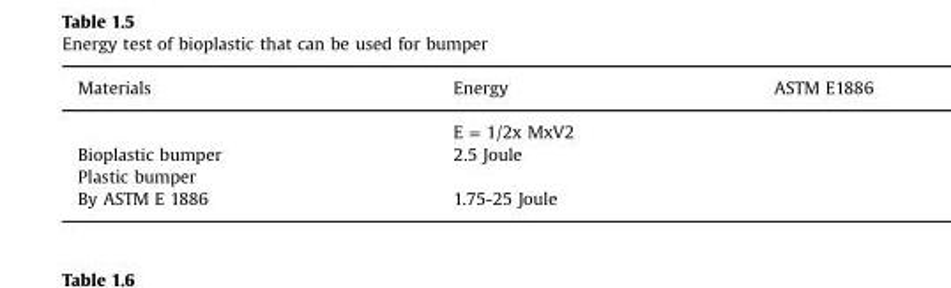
<table><thead><tr><td>Materials</td><td>Energy</td><td>ASTM E1886</td></tr></thead><tbody><tr><td></td><td>E = 1/2x MxV2</td><td></td></tr><tr><td>Bioplastic bumper</td><td>2.5 Joule</td><td></td></tr><tr><td colspan="3">Plastic bumper</td></tr><tr><td>By ASTM E 1886</td><td>1.75-25 Joule</td><td></td></tr></tbody></table>